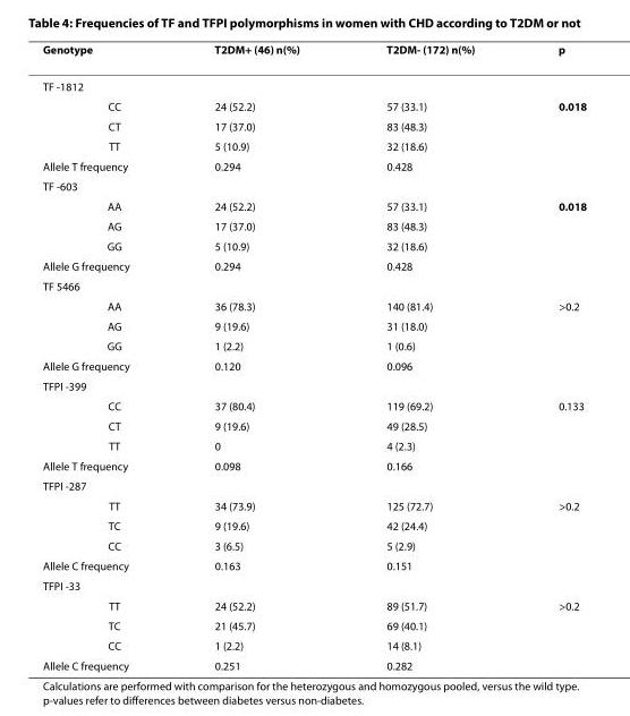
<table><thead><tr><td>Genotype</td><td>T2DM+ (46) n(%)</td><td>T2DM- (172) n(%)</td><td>p</td></tr></thead><tbody><tr><td colspan="4">TF -1812</td></tr><tr><td>CC</td><td>24 (52.2)</td><td>57 (33.1)</td><td>0.018</td></tr><tr><td>CT</td><td>17 (37.0)</td><td>83 (48.3)</td><td></td></tr><tr><td>TT</td><td>5 (10.9)</td><td>32 (18.6)</td><td></td></tr><tr><td>Allele T frequency</td><td>0.294</td><td>0.428</td><td></td></tr><tr><td colspan="4">TF -603</td></tr><tr><td>AA</td><td>24 (52.2)</td><td>57 (33.1)</td><td>0.018</td></tr><tr><td>AG</td><td>17 (37.0)</td><td>83 (48.3)</td><td></td></tr><tr><td>GG</td><td>5 (10.9)</td><td>32 (18.6)</td><td></td></tr><tr><td>Allele G frequency</td><td>0.294</td><td>0.428</td><td></td></tr><tr><td colspan="4">TF 5466</td></tr><tr><td>AA</td><td>36 (78.3)</td><td>140 (81.4)</td><td>&gt;0.2</td></tr><tr><td>AG</td><td>9 (19.6)</td><td>31 (18.0)</td><td></td></tr><tr><td>GG</td><td>1 (2.2)</td><td>1 (0.6)</td><td></td></tr><tr><td>Allele G frequency</td><td>0.120</td><td>0.096</td><td></td></tr><tr><td colspan="4">TFPI -399</td></tr><tr><td>CC</td><td>37 (80.4)</td><td>119 (69.2)</td><td>0.133</td></tr><tr><td>CT</td><td>9 (19.6)</td><td>49 (28.5)</td><td></td></tr><tr><td>TT</td><td>0</td><td>4 (2.3)</td><td></td></tr><tr><td>Allele T frequency</td><td>0.098</td><td>0.166</td><td></td></tr><tr><td colspan="4">TFPI -287</td></tr><tr><td>TT</td><td>34 (73.9)</td><td>125 (72.7)</td><td>&gt;0.2</td></tr><tr><td>TC</td><td>9 (19.6)</td><td>42 (24.4)</td><td></td></tr><tr><td>CC</td><td>3 (6.5)</td><td>5 (2.9)</td><td></td></tr><tr><td>Allele C frequency</td><td>0.163</td><td>0.151</td><td></td></tr><tr><td colspan="4">TFPI -33</td></tr><tr><td>TT</td><td>24 (52.2)</td><td>89 (51.7)</td><td>&gt;0.2</td></tr><tr><td>TC</td><td>21 (45.7)</td><td>69 (40.1)</td><td></td></tr><tr><td>CC</td><td>1 (2.2)</td><td>14 (8.1)</td><td></td></tr><tr><td>Allele C frequency</td><td>0.251</td><td>0.282</td><td></td></tr></tbody></table>